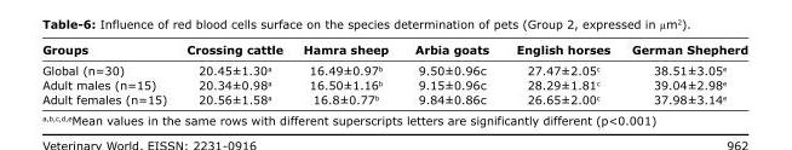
<table><thead><tr><td>Groups</td><td>Crossing cattle</td><td>Hamra sheep</td><td>Arbia goats</td><td>English horses</td><td>German Shepherd</td></tr></thead><tbody><tr><td>Global (n=30)</td><td>20.45±1.30<sup>a</sup></td><td>16.49±0.97<sup>b</sup></td><td>9.50±0.96c</td><td>27.47±2.05<sup>c</sup></td><td>38.51±3.05<sup>e</sup></td></tr><tr><td>Adult males (n=15)</td><td>20.34±0.98<sup>a</sup></td><td>16.50±1.16<sup>b</sup></td><td>9.15±0.96c</td><td>28.29±1.81<sup>c</sup></td><td>39.04±2.98<sup>e</sup></td></tr><tr><td>Adult females (n=15)</td><td>20.56±1.58<sup>a</sup></td><td>16.8±0.77<sup>b</sup></td><td>9.84±0.86c</td><td>26.65±2.00<sup>c</sup></td><td>37.98±3.14<sup>e</sup></td></tr></tbody></table>